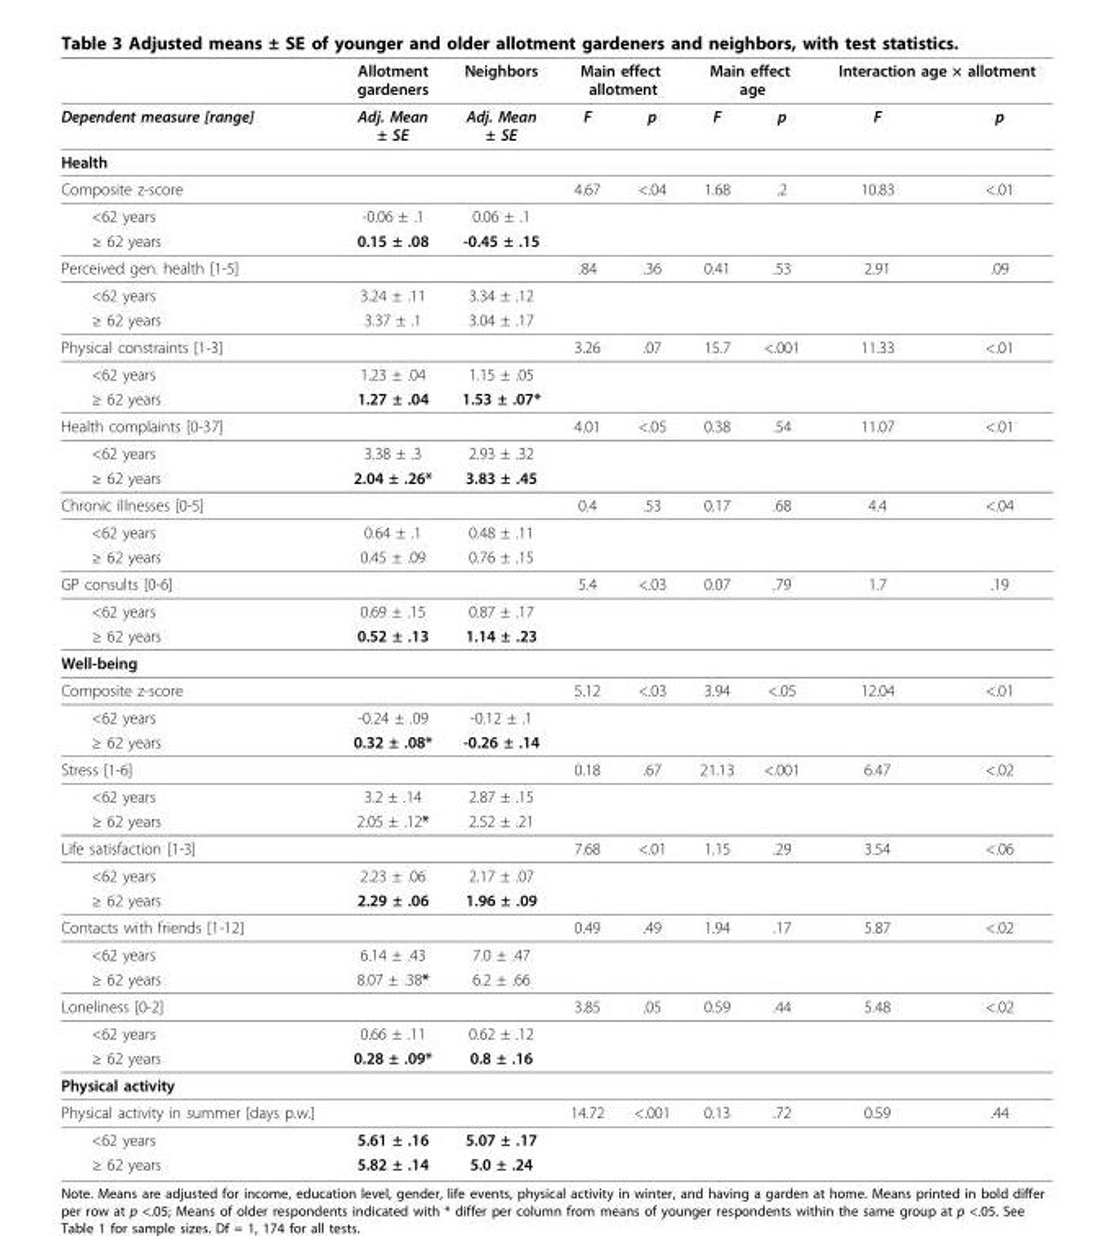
<table><thead><tr><td rowspan="2">Dependent measure [range]</td><td rowspan="2">Allotment gardeners Adj. Mean ± SE</td><td rowspan="2">Neighbors Adj. Mean ± SE</td><td colspan="2">Main effect allotment</td><td colspan="2">Main effect age</td><td colspan="2">Interaction age × allotment</td></tr><tr><td>F</td><td>p</td><td>F</td><td>p</td><td>F</td><td>p</td></tr></thead><tbody><tr><td colspan="9">Health</td></tr><tr><td>Composite z-score</td><td></td><td></td><td>4.67</td><td>&lt;.04</td><td>1.68</td><td>.2</td><td>10.83</td><td>&lt;.01</td></tr><tr><td>&lt;62 years</td><td>-0.06 ± .1</td><td>0.06 ± .1</td><td></td><td></td><td></td><td></td><td></td><td></td></tr><tr><td>≥ 62 years</td><td>0.15 ± .08</td><td>-0.45 ± .15</td><td></td><td></td><td></td><td></td><td></td><td></td></tr><tr><td>Perceived gen. health [1-5]</td><td></td><td></td><td>.84</td><td>.36</td><td>0.41</td><td>.53</td><td>2.91</td><td>.09</td></tr><tr><td>&lt;62 years</td><td>3.24 ± .11</td><td>3.34 ± .12</td><td></td><td></td><td></td><td></td><td></td><td></td></tr><tr><td>≥ 62 years</td><td>3.37 ± .1</td><td>3.04 ± .17</td><td></td><td></td><td></td><td></td><td></td><td></td></tr><tr><td>Physical constraints [1-3]</td><td></td><td></td><td>3.26</td><td>.07</td><td>15.7</td><td>&lt;.001</td><td>11.33</td><td>&lt;.01</td></tr><tr><td>&lt;62 years</td><td>1.23 ± .04</td><td>1.15 ± .05</td><td></td><td></td><td></td><td></td><td></td><td></td></tr><tr><td>≥ 62 years</td><td>1.27 ± .04</td><td>1.53 ± .07*</td><td></td><td></td><td></td><td></td><td></td><td></td></tr><tr><td>Health complaints [0-37]</td><td></td><td></td><td>4.01</td><td>&lt;.05</td><td>0.38</td><td>.54</td><td>11.07</td><td>&lt;.01</td></tr><tr><td>&lt;62 years</td><td>3.38 ± .3</td><td>2.93 ± .32</td><td></td><td></td><td></td><td></td><td></td><td></td></tr><tr><td>≥ 62 years</td><td>2.04 ± .26*</td><td>3.83 ± .45</td><td></td><td></td><td></td><td></td><td></td><td></td></tr><tr><td>Chronic illnesses [0-5]</td><td></td><td></td><td>0.4</td><td>.53</td><td>0.17</td><td>.68</td><td>4.4</td><td>&lt;.04</td></tr><tr><td>&lt;62 years</td><td>0.64 ± .1</td><td>0.48 ± .11</td><td></td><td></td><td></td><td></td><td></td><td></td></tr><tr><td>≥ 62 years</td><td>0.45 ± .09</td><td>0.76 ± .15</td><td></td><td></td><td></td><td></td><td></td><td></td></tr><tr><td>GP consults [0-6]</td><td></td><td></td><td>5.4</td><td>&lt;.03</td><td>0.07</td><td>.79</td><td>1.7</td><td>.19</td></tr><tr><td>&lt;62 years</td><td>0.69 ± .15</td><td>0.87 ± .17</td><td></td><td></td><td></td><td></td><td></td><td></td></tr><tr><td>≥ 62 years</td><td>0.52 ± .13</td><td>1.14 ± .23</td><td></td><td></td><td></td><td></td><td></td><td></td></tr><tr><td colspan="9">Well-being</td></tr><tr><td>Composite z-score</td><td></td><td></td><td>5.12</td><td>&lt;.03</td><td>3.94</td><td>&lt;.05</td><td>12.04</td><td>&lt;.01</td></tr><tr><td>&lt;62 years</td><td>-0.24 ± .09</td><td>-0.12 ± .1</td><td></td><td></td><td></td><td></td><td></td><td></td></tr><tr><td>≥ 62 years</td><td>0.32 ± .08*</td><td>-0.26 ± .14</td><td></td><td></td><td></td><td></td><td></td><td></td></tr><tr><td>Stress [1-6]</td><td></td><td></td><td>0.18</td><td>.67</td><td>21.13</td><td>&lt;.001</td><td>6.47</td><td>&lt;.02</td></tr><tr><td>&lt;62 years</td><td>3.2 ± .14</td><td>2.87 ± .15</td><td></td><td></td><td></td><td></td><td></td><td></td></tr><tr><td>≥ 62 years</td><td>2.05 ± .12*</td><td>2.52 ± .21</td><td></td><td></td><td></td><td></td><td></td><td></td></tr><tr><td>Life satisfaction [1-3]</td><td></td><td></td><td>7.68</td><td>&lt;.01</td><td>1.15</td><td>.29</td><td>3.54</td><td>&lt;.06</td></tr><tr><td>&lt;62 years</td><td>2.23 ± .06</td><td>2.17 ± .07</td><td></td><td></td><td></td><td></td><td></td><td></td></tr><tr><td>≥ 62 years</td><td>2.29 ± .06</td><td>1.96 ± .09</td><td></td><td></td><td></td><td></td><td></td><td></td></tr><tr><td>Contacts with friends [1-12]</td><td></td><td></td><td>0.49</td><td>.49</td><td>1.94</td><td>.17</td><td>5.87</td><td>&lt;.02</td></tr><tr><td>&lt;62 years</td><td>6.14 ± .43</td><td>7.0 ± .47</td><td></td><td></td><td></td><td></td><td></td><td></td></tr><tr><td>≥ 62 years</td><td>8.07 ± .38*</td><td>6.2 ± .66</td><td></td><td></td><td></td><td></td><td></td><td></td></tr><tr><td>Loneliness [0-2]</td><td></td><td></td><td>3.85</td><td>.05</td><td>0.59</td><td>.44</td><td>5.48</td><td>&lt;.02</td></tr><tr><td>&lt;62 years</td><td>0.66 ± .11</td><td>0.62 ± .12</td><td></td><td></td><td></td><td></td><td></td><td></td></tr><tr><td>≥ 62 years</td><td>0.28 ± .09*</td><td>0.8 ± .16</td><td></td><td></td><td></td><td></td><td></td><td></td></tr><tr><td colspan="9">Physical activity</td></tr><tr><td>Physical activity in summer [days p.w.]</td><td></td><td></td><td>14.72</td><td>&lt;.001</td><td>0.13</td><td>.72</td><td>0.59</td><td>.44</td></tr><tr><td>&lt;62 years</td><td>5.61 ± .16</td><td>5.07 ± .17</td><td></td><td></td><td></td><td></td><td></td><td></td></tr><tr><td>≥ 62 years</td><td>5.82 ± .14</td><td>5.0 ± .24</td><td></td><td></td><td></td><td></td><td></td><td></td></tr></tbody></table>